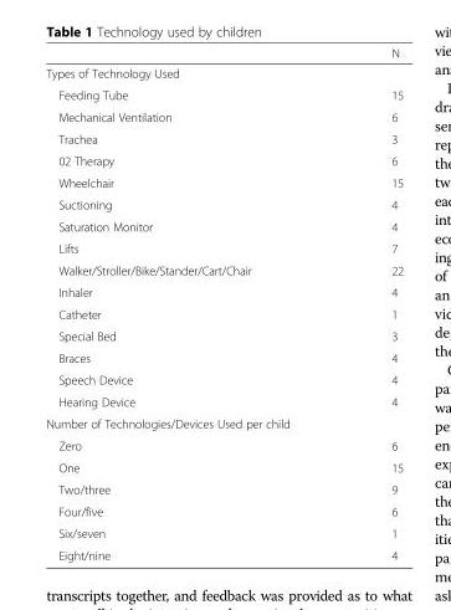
<table><thead><tr><td></td><td>N</td></tr></thead><tbody><tr><td colspan="2">Types of Technology Used</td></tr><tr><td>Feeding Tube</td><td>15</td></tr><tr><td>Mechanical Ventilation</td><td>6</td></tr><tr><td>Trachea</td><td>3</td></tr><tr><td>02 Therapy</td><td>6</td></tr><tr><td>Wheelchair</td><td>15</td></tr><tr><td>Suctioning</td><td>4</td></tr><tr><td>Saturation Monitor</td><td>4</td></tr><tr><td>Lifts</td><td>7</td></tr><tr><td>Walker/Stroller/Bike/Stander/Cart/Chair</td><td>22</td></tr><tr><td>Inhaler</td><td>4</td></tr><tr><td>Catheter</td><td>1</td></tr><tr><td>Special Bed</td><td>3</td></tr><tr><td>Braces</td><td>4</td></tr><tr><td>Speech Device</td><td>4</td></tr><tr><td>Hearing Device</td><td>4</td></tr><tr><td colspan="2">Number of Technologies/Devices Used per child</td></tr><tr><td>Zero</td><td>6</td></tr><tr><td>One</td><td>15</td></tr><tr><td>Two/three</td><td>9</td></tr><tr><td>Four/five</td><td>6</td></tr><tr><td>Six/seven</td><td>1</td></tr><tr><td>Eight/nine</td><td>4</td></tr></tbody></table>